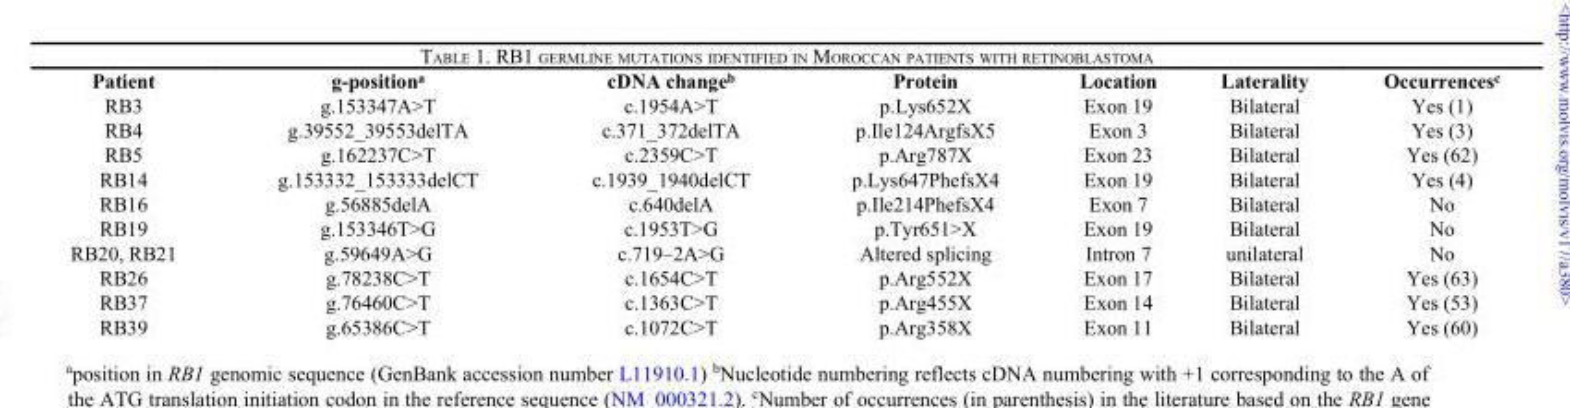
<table><thead><tr><td>Patient</td><td>g-position<sup>a</sup></td><td>cDNA change<sup>b</sup></td><td>Protein</td><td>Location</td><td>Laterality</td><td>Occurrences<sup>c</sup></td></tr></thead><tbody><tr><td>RB3</td><td>g.153347A&gt;T</td><td>c.1954A&gt;T</td><td>p.Lys652X</td><td>Exon 19</td><td>Bilateral</td><td>Yes (1)</td></tr><tr><td>RB4</td><td>g.39552_39553delTA</td><td>c.371_372delTA</td><td>p.Ile124ArgfsX5</td><td>Exon 3</td><td>Bilateral</td><td>Yes (3)</td></tr><tr><td>RB5</td><td>g.162237C&gt;T</td><td>c.2359C&gt;T</td><td>p.Arg787X</td><td>Exon 23</td><td>Bilateral</td><td>Yes (62)</td></tr><tr><td>RB14</td><td>g.153332_153333delCT</td><td>c.1939_1940delCT</td><td>p.Lys647PhefsX4</td><td>Exon 19</td><td>Bilateral</td><td>Yes (4)</td></tr><tr><td>RB16</td><td>g.56885delA</td><td>c.640delA</td><td>p.Ile214PhefsX4</td><td>Exon 7</td><td>Bilateral</td><td>No</td></tr><tr><td>RB19</td><td>g.153346T&gt;G</td><td>c.1953T&gt;G</td><td>p.Tyr651&gt;X</td><td>Exon 19</td><td>Bilateral</td><td>No</td></tr><tr><td>RB20, RB21</td><td>g.59649A&gt;G</td><td>c.719–2A&gt;G</td><td>Altered splicing</td><td>Intron 7</td><td>unilateral</td><td>No</td></tr><tr><td>RB26</td><td>g.78238C&gt;T</td><td>c.1654C&gt;T</td><td>p.Arg552X</td><td>Exon 17</td><td>Bilateral</td><td>Yes (63)</td></tr><tr><td>RB37</td><td>g.76460C&gt;T</td><td>c.1363C&gt;T</td><td>p.Arg455X</td><td>Exon 14</td><td>Bilateral</td><td>Yes (53)</td></tr><tr><td>RB39</td><td>g.65386C&gt;T</td><td>c.1072C&gt;T</td><td>p.Arg358X</td><td>Exon 11</td><td>Bilateral</td><td>Yes (60)</td></tr></tbody></table>